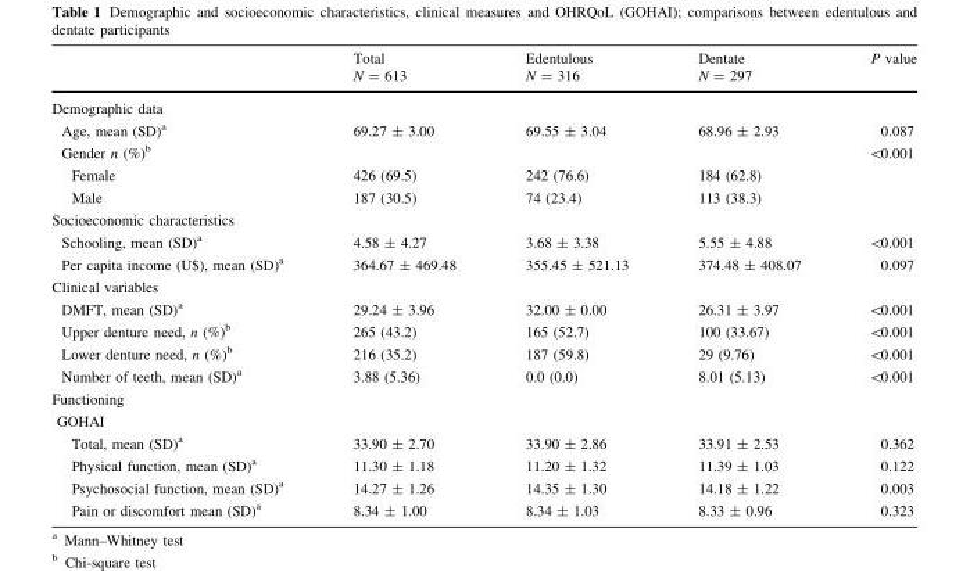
<table><thead><tr><td></td><td>Total N = 613</td><td>Edentulous N = 316</td><td>Dentate N = 297</td><td>P value</td></tr></thead><tbody><tr><td colspan="5">Demographic data</td></tr><tr><td>Age, mean (SD)<sup>a</sup></td><td>69.27 ± 3.00</td><td>69.55 ± 3.04</td><td>68.96 ± 2.93</td><td>0.087</td></tr><tr><td>Gender n (%)<sup>b</sup></td><td></td><td></td><td></td><td>&lt;0.001</td></tr><tr><td>Female</td><td>426 (69.5)</td><td>242 (76.6)</td><td>184 (62.8)</td><td></td></tr><tr><td>Male</td><td>187 (30.5)</td><td>74 (23.4)</td><td>113 (38.3)</td><td></td></tr><tr><td colspan="5">Socioeconomic characteristics</td></tr><tr><td>Schooling, mean (SD)<sup>a</sup></td><td>4.58 ± 4.27</td><td>3.68 ± 3.38</td><td>5.55 ± 4.88</td><td>&lt;0.001</td></tr><tr><td>Per capita income (U$), mean (SD)<sup>a</sup></td><td>364.67 ± 469.48</td><td>355.45 ± 521.13</td><td>374.48 ± 408.07</td><td>0.097</td></tr><tr><td colspan="5">Clinical variables</td></tr><tr><td>DMFT, mean (SD)<sup>a</sup></td><td>29.24 ± 3.96</td><td>32.00 ± 0.00</td><td>26.31 ± 3.97</td><td>&lt;0.001</td></tr><tr><td>Upper denture need, n (%)<sup>b</sup></td><td>265 (43.2)</td><td>165 (52.7)</td><td>100 (33.67)</td><td>&lt;0.001</td></tr><tr><td>Lower denture need, n (%)<sup>b</sup></td><td>216 (35.2)</td><td>187 (59.8)</td><td>29 (9.76)</td><td>&lt;0.001</td></tr><tr><td>Number of teeth, mean (SD)<sup>a</sup></td><td>3.88 (5.36)</td><td>0.0 (0.0)</td><td>8.01 (5.13)</td><td>&lt;0.001</td></tr><tr><td colspan="5">Functioning</td></tr><tr><td colspan="5">GOHAI</td></tr><tr><td>Total, mean (SD)<sup>a</sup></td><td>33.90 ± 2.70</td><td>33.90 ± 2.86</td><td>33.91 ± 2.53</td><td>0.362</td></tr><tr><td>Physical function, mean (SD)<sup>a</sup></td><td>11.30 ± 1.18</td><td>11.20 ± 1.32</td><td>11.39 ± 1.03</td><td>0.122</td></tr><tr><td>Psychosocial function, mean (SD)<sup>a</sup></td><td>14.27 ± 1.26</td><td>14.35 ± 1.30</td><td>14.18 ± 1.22</td><td>0.003</td></tr><tr><td>Pain or discomfort mean (SD)<sup>a</sup></td><td>8.34 ± 1.00</td><td>8.34 ± 1.03</td><td>8.33 ± 0.96</td><td>0.323</td></tr></tbody></table>